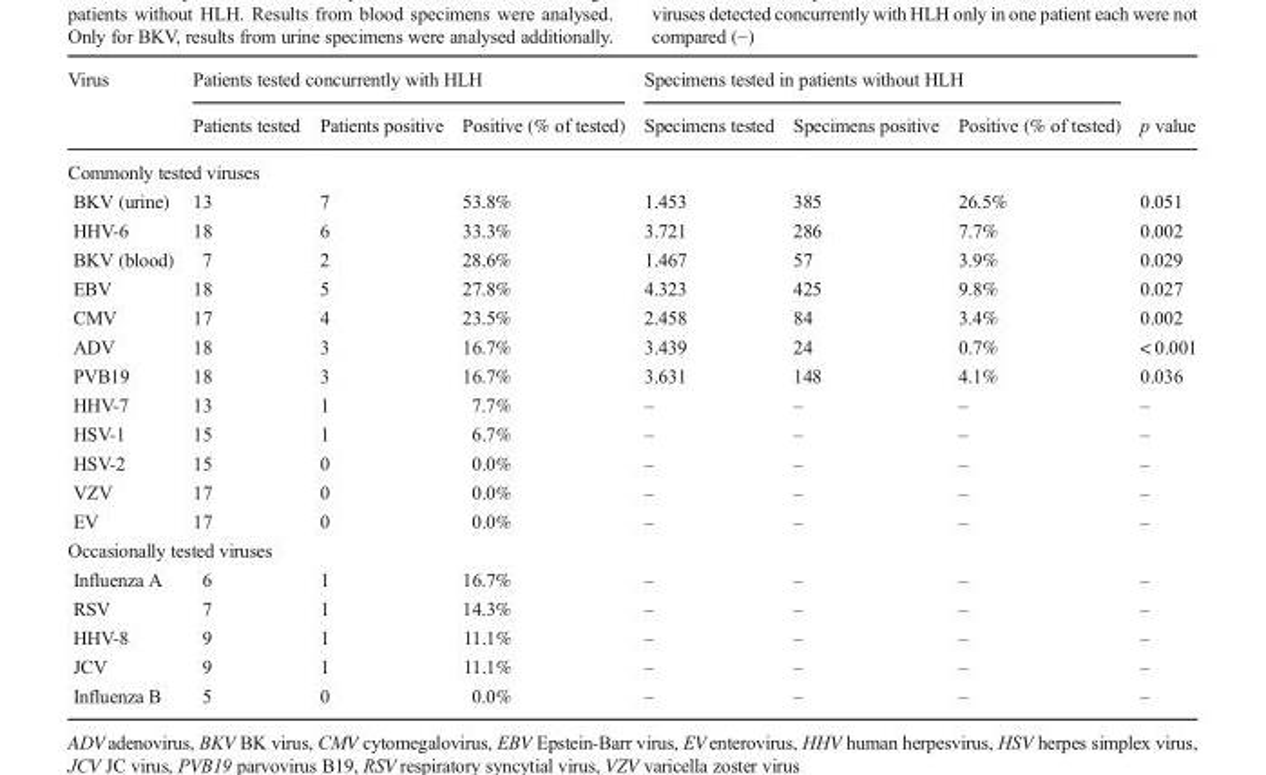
<table><thead><tr><td rowspan="2">Virus</td><td colspan="3">Patients tested concurrently with HLH</td><td colspan="3">Specimens tested in patients without HLH</td><td rowspan="2">p value</td></tr><tr><td>Patients tested</td><td>Patients positive</td><td>Positive (% of tested)</td><td>Specimens tested</td><td>Specimens positive</td><td>Positive (% of tested)</td></tr></thead><tbody><tr><td colspan="8">Commonly tested viruses</td></tr><tr><td>BKV (urine)</td><td>13</td><td>7</td><td>53.8%</td><td>1.453</td><td>385</td><td>26.5%</td><td>0.051</td></tr><tr><td>HHV-6</td><td>18</td><td>6</td><td>33.3%</td><td>3.721</td><td>286</td><td>7.7%</td><td>0.002</td></tr><tr><td>BKV (blood)</td><td>7</td><td>2</td><td>28.6%</td><td>1.467</td><td>57</td><td>3.9%</td><td>0.029</td></tr><tr><td>EBV</td><td>18</td><td>5</td><td>27.8%</td><td>4.323</td><td>425</td><td>9.8%</td><td>0.027</td></tr><tr><td>CMV</td><td>17</td><td>4</td><td>23.5%</td><td>2.458</td><td>84</td><td>3.4%</td><td>0.002</td></tr><tr><td>ADV</td><td>18</td><td>3</td><td>16.7%</td><td>3.439</td><td>24</td><td>0.7%</td><td>&lt; 0.001</td></tr><tr><td>PVB19</td><td>18</td><td>3</td><td>16.7%</td><td>3.631</td><td>148</td><td>4.1%</td><td>0.036</td></tr><tr><td>HHV-7</td><td>13</td><td>1</td><td>7.7%</td><td>–</td><td>–</td><td>–</td><td>–</td></tr><tr><td>HSV-1</td><td>15</td><td>1</td><td>6.7%</td><td>–</td><td>–</td><td>–</td><td>–</td></tr><tr><td>HSV-2</td><td>15</td><td>0</td><td>0.0%</td><td>–</td><td>–</td><td>–</td><td>–</td></tr><tr><td>VZV</td><td>17</td><td>0</td><td>0.0%</td><td>–</td><td>–</td><td>–</td><td>–</td></tr><tr><td>EV</td><td>17</td><td>0</td><td>0.0%</td><td>–</td><td>–</td><td>–</td><td>–</td></tr><tr><td colspan="8">Occasionally tested viruses</td></tr><tr><td>Influenza A</td><td>6</td><td>1</td><td>16.7%</td><td>–</td><td>–</td><td>–</td><td>–</td></tr><tr><td>RSV</td><td>7</td><td>1</td><td>14.3%</td><td>–</td><td>–</td><td>–</td><td>–</td></tr><tr><td>HHV-8</td><td>9</td><td>1</td><td>11.1%</td><td>–</td><td>–</td><td>–</td><td>–</td></tr><tr><td>JCV</td><td>9</td><td>1</td><td>11.1%</td><td>–</td><td>–</td><td>–</td><td>–</td></tr><tr><td>Influenza B</td><td>5</td><td>0</td><td>0.0%</td><td>–</td><td>–</td><td>–</td><td>–</td></tr></tbody></table>